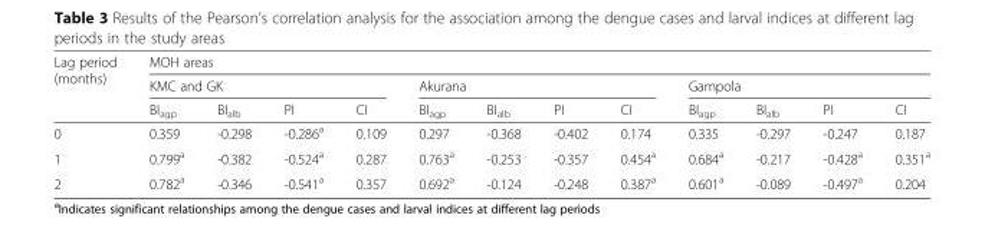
<table><thead><tr><td rowspan="3">Lag period (months)</td><td colspan="12">MOH areas</td></tr><tr><td colspan="4">KMC and GK</td><td colspan="4">Akurana</td><td colspan="4">Gampola</td></tr><tr><td>BI<sub>agp</sub></td><td>BI<sub>alb</sub></td><td>PI</td><td>CI</td><td>BI<sub>agp</sub></td><td>BI<sub>alb</sub></td><td>PI</td><td>CI</td><td>BI<sub>agp</sub></td><td>BI<sub>alb</sub></td><td>PI</td><td>CI</td></tr></thead><tbody><tr><td>0</td><td>0.359</td><td>-0.298</td><td>-0.286<sup>a</sup></td><td>0.109</td><td>0.297</td><td>-0.368</td><td>-0.402</td><td>0.174</td><td>0.335</td><td>-0.297</td><td>-0.247</td><td>0.187</td></tr><tr><td>1</td><td>0.799<sup>a</sup></td><td>-0.382</td><td>-0.524<sup>a</sup></td><td>0.287</td><td>0.763<sup>a</sup></td><td>-0.253</td><td>-0.357</td><td>0.454<sup>a</sup></td><td>0.684<sup>a</sup></td><td>-0.217</td><td>-0.428<sup>a</sup></td><td>0.351<sup>a</sup></td></tr><tr><td>2</td><td>0.782<sup>a</sup></td><td>-0.346</td><td>-0.541<sup>a</sup></td><td>0.357</td><td>0.692<sup>a</sup></td><td>-0.124</td><td>-0.248</td><td>0.387<sup>a</sup></td><td>0.601<sup>a</sup></td><td>-0.089</td><td>-0.497<sup>a</sup></td><td>0.204</td></tr></tbody></table>